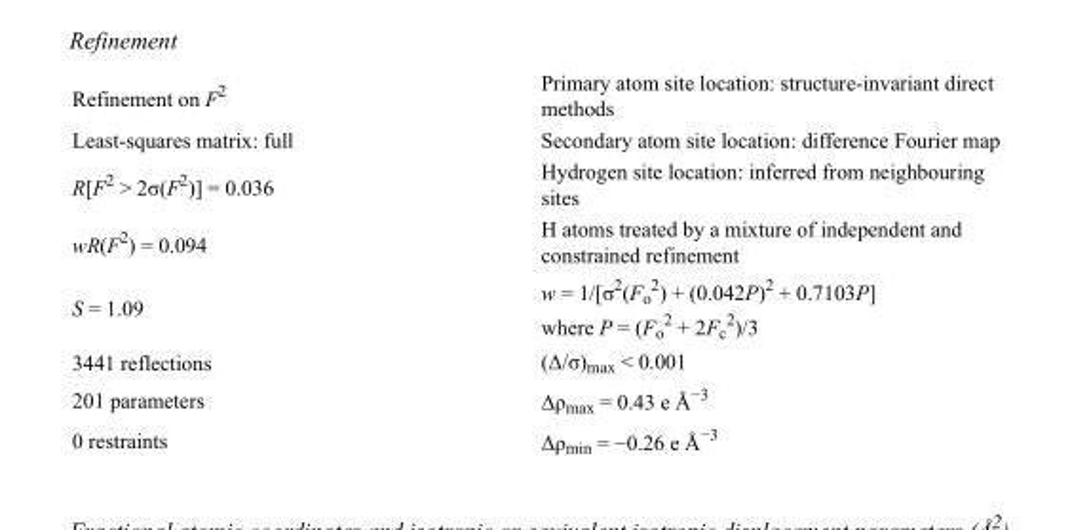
<table><tbody><tr><td>Refinement on F<sup>2</sup></td><td>Primary atom site location: structure-invariant direct methods</td></tr><tr><td>Least-squares matrix: full</td><td>Secondary atom site location: difference Fourier map</td></tr><tr><td>R[F<sup>2</sup> &gt; 2σ(F<sup>2</sup>)] = 0.036</td><td>Hydrogen site location: inferred from neighbouring sites</td></tr><tr><td>wR(F<sup>2</sup>) = 0.094</td><td>H atoms treated by a mixture of independent and constrained refinement</td></tr><tr><td>S = 1.09</td><td>w = 1/[σ<sup>2</sup>(F<sub>o</sub> <sup>2</sup>) + (0.042P)<sup>2</sup> + 0.7103P] where P = (F<sub>o</sub> <sup>2</sup> + 2F<sub>c</sub> <sup>2</sup>)/3</td></tr><tr><td>3441 reflections</td><td>(Δ/σ)<sub>max</sub> &lt; 0.001</td></tr><tr><td>201 parameters</td><td>Δρ<sub>max</sub> = 0.43 e Å<sup>−3</sup></td></tr><tr><td>0 restraints</td><td>Δρ<sub>min</sub> = −0.26 e Å<sup>−3</sup></td></tr></tbody></table>